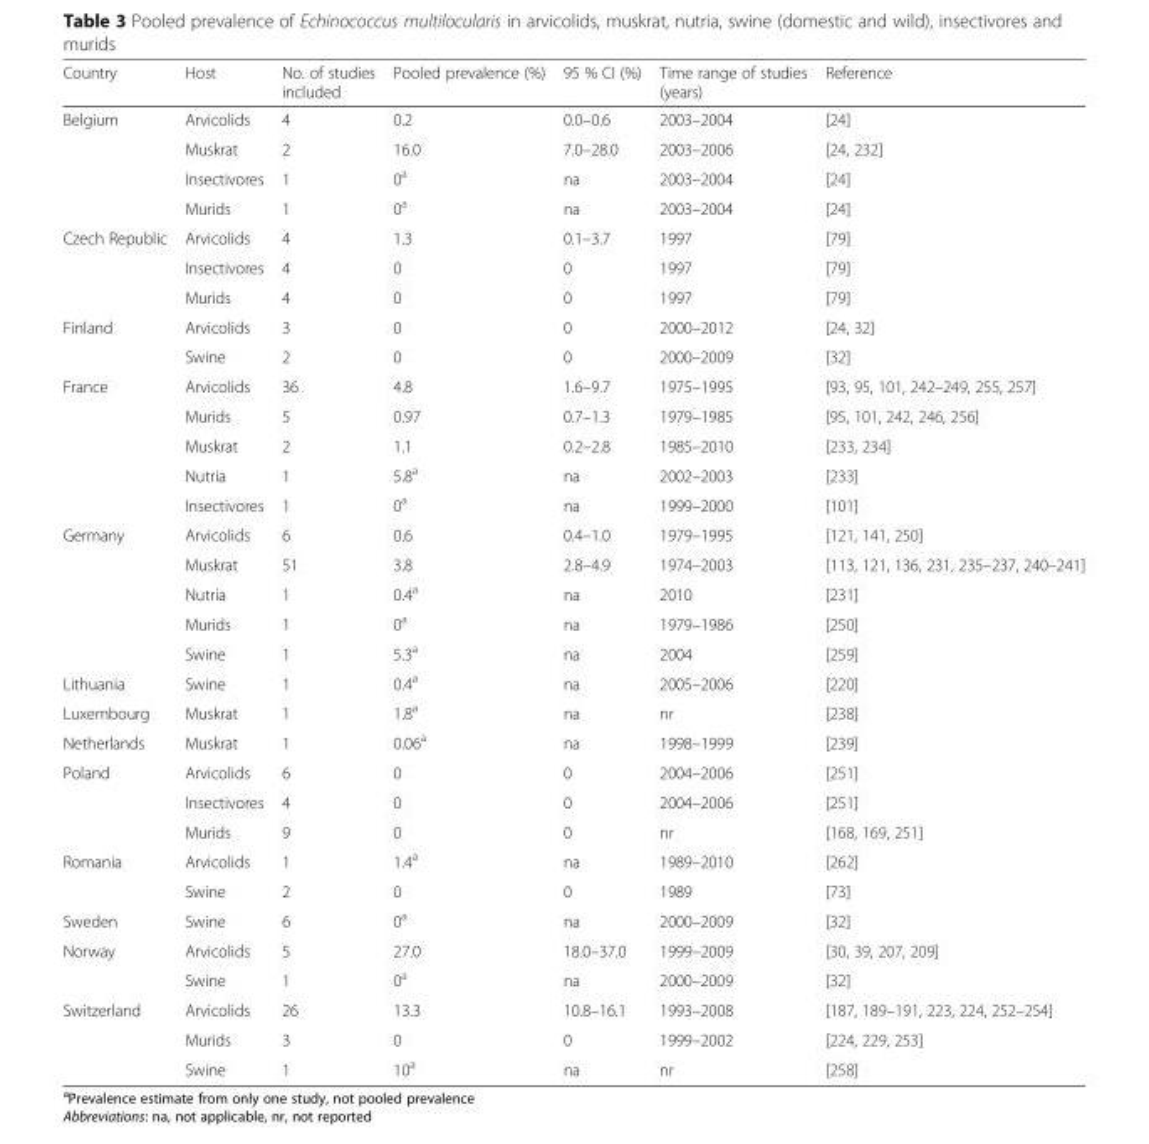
<table><thead><tr><td>Country</td><td>Host</td><td>No. of studies included</td><td>Pooled prevalence (%)</td><td>95 % CI (%)</td><td>Time range of studies (years)</td><td>Reference</td></tr></thead><tbody><tr><td rowspan="4">Belgium</td><td>Arvicolids</td><td>4</td><td>0.2</td><td>0.0–0.6</td><td>2003–2004</td><td>[24]</td></tr><tr><td>Muskrat</td><td>2</td><td>16.0</td><td>7.0–28.0</td><td>2003–2006</td><td>[24, 232]</td></tr><tr><td>Insectivores</td><td>1</td><td>0<sup>a</sup></td><td>na</td><td>2003–2004</td><td>[24]</td></tr><tr><td>Murids</td><td>1</td><td>0<sup>a</sup></td><td>na</td><td>2003–2004</td><td>[24]</td></tr><tr><td rowspan="3">Czech Republic</td><td>Arvicolids</td><td>4</td><td>1.3</td><td>0.1–3.7</td><td>1997</td><td>[79]</td></tr><tr><td>Insectivores</td><td>4</td><td>0</td><td>0</td><td>1997</td><td>[79]</td></tr><tr><td>Murids</td><td>4</td><td>0</td><td>0</td><td>1997</td><td>[79]</td></tr><tr><td rowspan="2">Finland</td><td>Arvicolids</td><td>3</td><td>0</td><td>0</td><td>2000–2012</td><td>[24, 32]</td></tr><tr><td>Swine</td><td>2</td><td>0</td><td>0</td><td>2000–2009</td><td>[32]</td></tr><tr><td rowspan="5">France</td><td>Arvicolids</td><td>36</td><td>4.8</td><td>1.6–9.7</td><td>1975–1995</td><td>[93, 95, 101, 242–249, 255, 257]</td></tr><tr><td>Murids</td><td>5</td><td>0.97</td><td>0.7–1.3</td><td>1979–1985</td><td>[95, 101, 242, 246, 256]</td></tr><tr><td>Muskrat</td><td>2</td><td>1.1</td><td>0.2–2.8</td><td>1985–2010</td><td>[233, 234]</td></tr><tr><td>Nutria</td><td>1</td><td>5.8<sup>a</sup></td><td>na</td><td>2002–2003</td><td>[233]</td></tr><tr><td>Insectivores</td><td>1</td><td>0<sup>a</sup></td><td>na</td><td>1999–2000</td><td>[101]</td></tr><tr><td rowspan="5">Germany</td><td>Arvicolids</td><td>6</td><td>0.6</td><td>0.4–1.0</td><td>1979–1995</td><td>[121, 141, 250]</td></tr><tr><td>Muskrat</td><td>51</td><td>3.8</td><td>2.8–4.9</td><td>1974–2003</td><td>[113, 121, 136, 231, 235–237, 240–241]</td></tr><tr><td>Nutria</td><td>1</td><td>0.4<sup>a</sup></td><td>na</td><td>2010</td><td>[231]</td></tr><tr><td>Murids</td><td>1</td><td>0<sup>a</sup></td><td>na</td><td>1979–1986</td><td>[250]</td></tr><tr><td>Swine</td><td>1</td><td>5.3<sup>a</sup></td><td>na</td><td>2004</td><td>[259]</td></tr><tr><td>Lithuania</td><td>Swine</td><td>1</td><td>0.4<sup>a</sup></td><td>na</td><td>2005–2006</td><td>[220]</td></tr><tr><td>Luxembourg</td><td>Muskrat</td><td>1</td><td>1.8<sup>a</sup></td><td>na</td><td>nr</td><td>[238]</td></tr><tr><td>Netherlands</td><td>Muskrat</td><td>1</td><td>0.06<sup>a</sup></td><td>na</td><td>1998–1999</td><td>[239]</td></tr><tr><td rowspan="3">Poland</td><td>Arvicolids</td><td>6</td><td>0</td><td>0</td><td>2004–2006</td><td>[251]</td></tr><tr><td>Insectivores</td><td>4</td><td>0</td><td>0</td><td>2004–2006</td><td>[251]</td></tr><tr><td>Murids</td><td>9</td><td>0</td><td>0</td><td>nr</td><td>[168, 169, 251]</td></tr><tr><td rowspan="2">Romania</td><td>Arvicolids</td><td>1</td><td>1.4<sup>a</sup></td><td>na</td><td>1989–2010</td><td>[262]</td></tr><tr><td>Swine</td><td>2</td><td>0</td><td>0</td><td>1989</td><td>[73]</td></tr><tr><td>Sweden</td><td>Swine</td><td>6</td><td>0<sup>a</sup></td><td>na</td><td>2000–2009</td><td>[32]</td></tr><tr><td rowspan="2">Norway</td><td>Arvicolids</td><td>5</td><td>27.0</td><td>18.0–37.0</td><td>1999–2009</td><td>[30, 39, 207, 209]</td></tr><tr><td>Swine</td><td>1</td><td>0<sup>a</sup></td><td>na</td><td>2000–2009</td><td>[32]</td></tr><tr><td rowspan="3">Switzerland</td><td>Arvicolids</td><td>26</td><td>13.3</td><td>10.8–16.1</td><td>1993–2008</td><td>[187, 189–191, 223, 224, 252–254]</td></tr><tr><td>Murids</td><td>3</td><td>0</td><td>0</td><td>1999–2002</td><td>[224, 229, 253]</td></tr><tr><td>Swine</td><td>1</td><td>10<sup>a</sup></td><td>na</td><td>nr</td><td>[258]</td></tr></tbody></table>